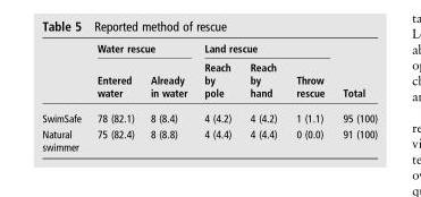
<table><thead><tr><td rowspan="2"></td><td colspan="2">Water rescue</td><td colspan="3">Land rescue</td><td rowspan="2">Total</td></tr><tr><td>Entered water</td><td>Already in water</td><td>Reach by pole</td><td>Reach by hand</td><td>Throw rescue</td></tr></thead><tbody><tr><td>SwimSafe</td><td>78 (82.1)</td><td>8 (8.4)</td><td>4 (4.2)</td><td>4 (4.2)</td><td>1 (1.1)</td><td>95 (100)</td></tr><tr><td>Natural swimmer</td><td>75 (82.4)</td><td>8 (8.8)</td><td>4 (4.4)</td><td>4 (4.4)</td><td>0 (0.0)</td><td>91 (100)</td></tr></tbody></table>